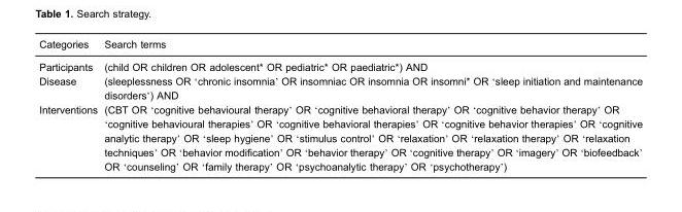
<table><thead><tr><td>Categories</td><td>Search terms</td></tr></thead><tbody><tr><td>Participants</td><td>(child OR children OR adolescent* OR pediatric* OR paediatric*) AND</td></tr><tr><td>Disease</td><td>(sleeplessness OR ‘chronic insomnia’ OR insomniac OR insomnia OR insomni* OR ‘sleep initiation and maintenance disorders’) AND</td></tr><tr><td>Interventions</td><td>(CBT OR ‘cognitive behavioural therapy’ OR ‘cognitive behavioral therapy’ OR ‘cognitive behavior therapy’ OR ‘cognitive behavioural therapies’ OR ‘cognitive behavioral therapies’ OR ‘cognitive behavior therapies’ OR ‘cognitive analytic therapy’ OR ‘sleep hygiene’ OR ‘stimulus control’ OR ‘relaxation’ OR ‘relaxation therapy’ OR ‘relaxation techniques’ OR ‘behavior modification’ OR ‘behavior therapy’ OR ‘cognitive therapy’ OR ‘imagery’ OR ‘biofeedback’ OR ‘counseling’ OR ‘family therapy’ OR ‘psychoanalytic therapy’ OR ‘psychotherapy’)</td></tr></tbody></table>